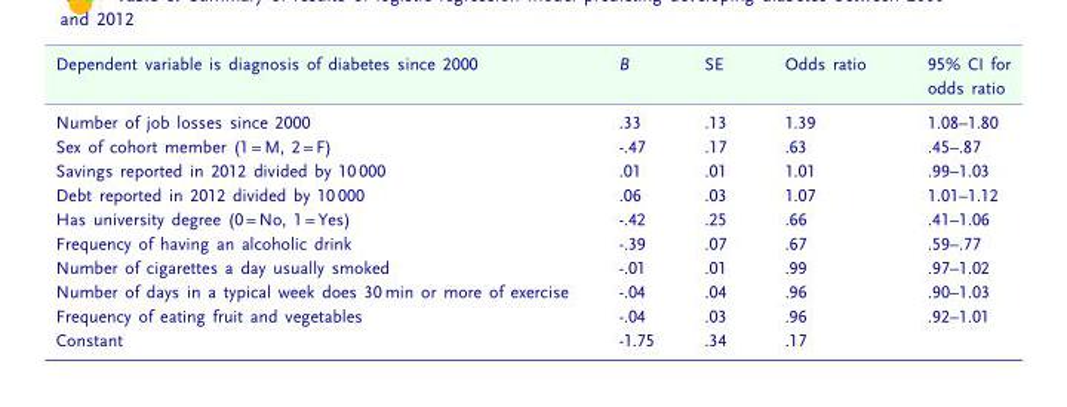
<table><thead><tr><td>Dependent variable is diagnosis of diabetes since 2000</td><td>B</td><td>SE</td><td>Odds ratio</td><td>95% CI for odds ratio</td></tr></thead><tbody><tr><td>Number of job losses since 2000</td><td>.33</td><td>.13</td><td>1.39</td><td>1.08–1.80</td></tr><tr><td>Sex of cohort member (1 = M, 2 = F)</td><td>-.47</td><td>.17</td><td>.63</td><td>.45–.87</td></tr><tr><td>Savings reported in 2012 divided by 10 000</td><td>.01</td><td>.01</td><td>1.01</td><td>.99–1.03</td></tr><tr><td>Debt reported in 2012 divided by 10 000</td><td>.06</td><td>.03</td><td>1.07</td><td>1.01–1.12</td></tr><tr><td>Has university degree (0 = No, 1 = Yes)</td><td>-.42</td><td>.25</td><td>.66</td><td>.41–1.06</td></tr><tr><td>Frequency of having an alcoholic drink</td><td>-.39</td><td>.07</td><td>.67</td><td>.59–.77</td></tr><tr><td>Number of cigarettes a day usually smoked</td><td>-.01</td><td>.01</td><td>.99</td><td>.97–1.02</td></tr><tr><td>Number of days in a typical week does 30 min or more of exercise</td><td>-.04</td><td>.04</td><td>.96</td><td>.90–1.03</td></tr><tr><td>Frequency of eating fruit and vegetables</td><td>-.04</td><td>.03</td><td>.96</td><td>.92–1.01</td></tr><tr><td>Constant</td><td>-1.75</td><td>.34</td><td>.17</td><td></td></tr></tbody></table>